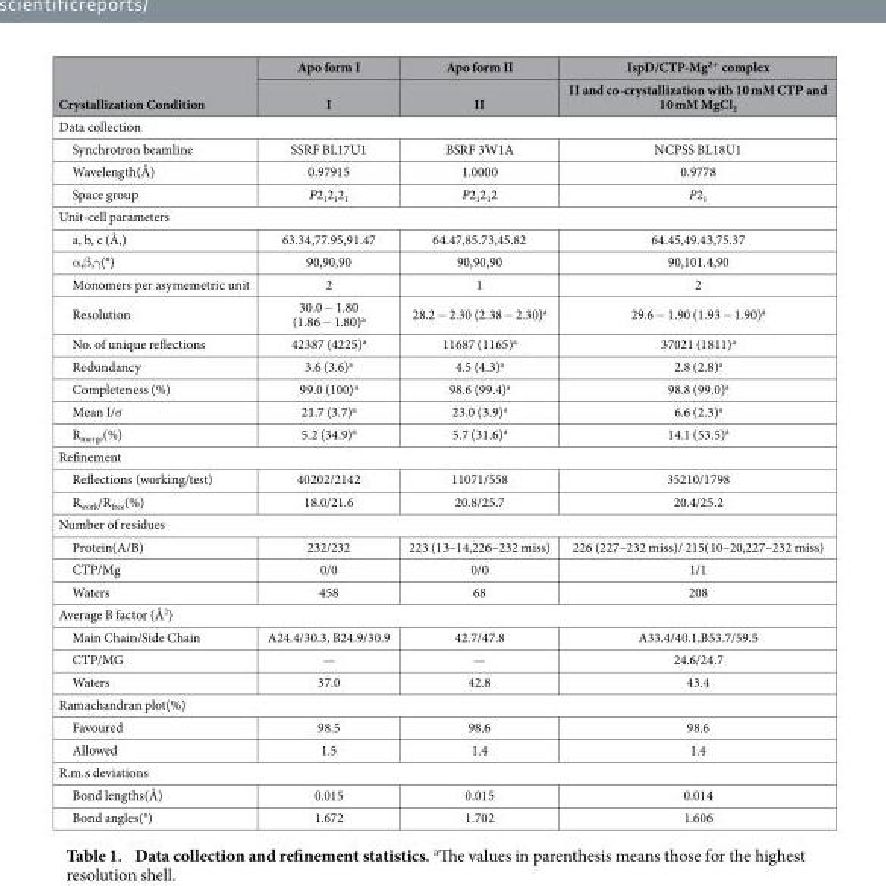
<table><thead><tr><td rowspan="2">Crystallization Condition</td><td rowspan="2">Apo form I I</td><td rowspan="2">Apo form II II</td><td rowspan="2">IspD/CTP-Mg<sup>2+</sup> complex II and co-crystallization with 10 mM CTP and 10 mM MgCl<sub>2</sub></td></tr><tr></tr></thead><tbody><tr><td colspan="4">Data collection</td></tr><tr><td>Synchrotron beamline</td><td>SSRF BL17U1</td><td>BSRF 3W1A</td><td>NCPSS BL18U1</td></tr><tr><td>Wavelength(Å)</td><td>0.97915</td><td>1.0000</td><td>0.9778</td></tr><tr><td>Space group</td><td>P2<sub>1</sub>2<sub>1</sub>2<sub>1</sub></td><td>P2<sub>1</sub>2<sub>1</sub>2</td><td>P2<sub>1</sub></td></tr><tr><td colspan="4">Unit-cell parameters</td></tr><tr><td>a, b, c (Å,)</td><td>63.34,77.95,91.47</td><td>64.47,85.73,45.82</td><td>64.45,49.43,75.37</td></tr><tr><td>α ,β ,γ (°)</td><td>90,90,90</td><td>90,90,90</td><td>90,101.4,90</td></tr><tr><td>Monomers per asymemetric unit</td><td>2</td><td>1</td><td>2</td></tr><tr><td>Resolution</td><td>30.0 − 1.80 (1.86 − 1.80)<sup>a</sup></td><td>28.2 − 2.30 (2.38 − 2.30)<sup>a</sup></td><td>29.6 − 1.90 (1.93 − 1.90)<sup>a</sup></td></tr><tr><td>No. of unique reflections</td><td>42387 (4225)<sup>a</sup></td><td>11687 (1165)<sup>a</sup></td><td>37021 (1811)<sup>a</sup></td></tr><tr><td>Redundancy</td><td>3.6 (3.6)<sup>a</sup></td><td>4.5 (4.3)<sup>a</sup></td><td>2.8 (2.8)<sup>a</sup></td></tr><tr><td>Completeness (%)</td><td>99.0 (100)<sup>a</sup></td><td>98.6 (99.4)<sup>a</sup></td><td>98.8 (99.0)<sup>a</sup></td></tr><tr><td>Mean I/σ</td><td>21.7 (3.7)<sup>a</sup></td><td>23.0 (3.9)<sup>a</sup></td><td>6.6 (2.3)<sup>a</sup></td></tr><tr><td>R<sub>merge</sub>(%)</td><td>5.2 (34.9)<sup>a</sup></td><td>5.7 (31.6)<sup>a</sup></td><td>14.1 (53.5)<sup>a</sup></td></tr><tr><td colspan="4">Refinement</td></tr><tr><td>Reflections (working/test)</td><td>40202/2142</td><td>11071/558</td><td>35210/1798</td></tr><tr><td>R<sub>work</sub>/R<sub>free</sub>(%)</td><td>18.0/21.6</td><td>20.8/25.7</td><td>20.4/25.2</td></tr><tr><td colspan="4">Number of residues</td></tr><tr><td>Protein(A/B)</td><td>232/232</td><td>223 (13–14,226–232 miss)</td><td>226 (227–232 miss)/ 215(10–20,227–232 miss)</td></tr><tr><td>CTP/Mg</td><td>0/0</td><td>0/0</td><td>1/1</td></tr><tr><td>Waters</td><td>458</td><td>68</td><td>208</td></tr><tr><td colspan="4">Average B factor (Å<sup>2</sup>)</td></tr><tr><td>Main Chain/Side Chain</td><td>A24.4/30.3, B24.9/30.9</td><td>42.7/47.8</td><td>A33.4/40.1,B53.7/59.5</td></tr><tr><td>CTP/MG</td><td>—</td><td>—</td><td>24.6/24.7</td></tr><tr><td>Waters</td><td>37.0</td><td>42.8</td><td>43.4</td></tr><tr><td colspan="4">Ramachandran plot(%)</td></tr><tr><td>Favoured</td><td>98.5</td><td>98.6</td><td>98.6</td></tr><tr><td>Allowed</td><td>1.5</td><td>1.4</td><td>1.4</td></tr><tr><td colspan="4">R.m.s deviations</td></tr><tr><td>Bond lengths(Å)</td><td>0.015</td><td>0.015</td><td>0.014</td></tr><tr><td>Bond angles(°)</td><td>1.672</td><td>1.702</td><td>1.606</td></tr></tbody></table>